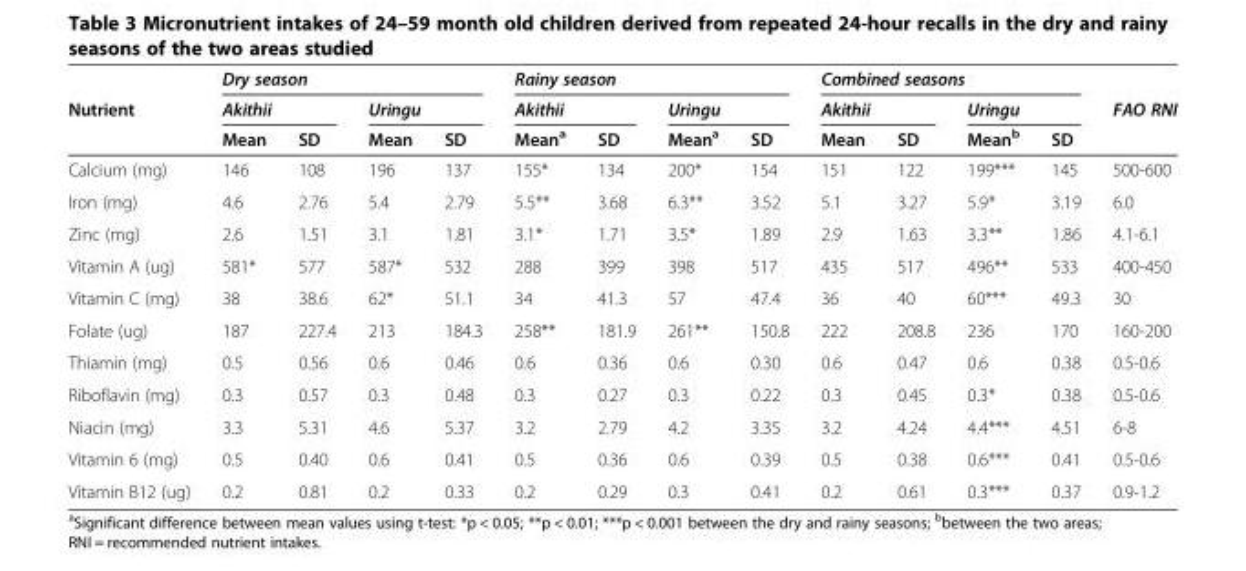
<table><thead><tr><td rowspan="3">Nutrient</td><td colspan="4">Dry season</td><td colspan="4">Rainy season</td><td colspan="4">Combined seasons</td><td rowspan="3">FAO RNI</td></tr><tr><td colspan="2">Akithii</td><td colspan="2">Uringu</td><td colspan="2">Akithii</td><td colspan="2">Uringu</td><td colspan="2">Akithii</td><td colspan="2">Uringu</td></tr><tr><td>Mean</td><td>SD</td><td>Mean</td><td>SD</td><td>Mean<sup>a</sup></td><td>SD</td><td>Mean<sup>a</sup></td><td>SD</td><td>Mean</td><td>SD</td><td>Mean<sup>b</sup></td><td>SD</td></tr></thead><tbody><tr><td>Calcium (mg)</td><td>146</td><td>108</td><td>196</td><td>137</td><td>155*</td><td>134</td><td>200*</td><td>154</td><td>151</td><td>122</td><td>199***</td><td>145</td><td>500-600</td></tr><tr><td>Iron (mg)</td><td>4.6</td><td>2.76</td><td>5.4</td><td>2.79</td><td>5.5**</td><td>3.68</td><td>6.3**</td><td>3.52</td><td>5.1</td><td>3.27</td><td>5.9*</td><td>3.19</td><td>6.0</td></tr><tr><td>Zinc (mg)</td><td>2.6</td><td>1.51</td><td>3.1</td><td>1.81</td><td>3.1*</td><td>1.71</td><td>3.5*</td><td>1.89</td><td>2.9</td><td>1.63</td><td>3.3**</td><td>1.86</td><td>4.1-6.1</td></tr><tr><td>Vitamin A (ug)</td><td>581*</td><td>577</td><td>587*</td><td>532</td><td>288</td><td>399</td><td>398</td><td>517</td><td>435</td><td>517</td><td>496**</td><td>533</td><td>400-450</td></tr><tr><td>Vitamin C (mg)</td><td>38</td><td>38.6</td><td>62*</td><td>51.1</td><td>34</td><td>41.3</td><td>57</td><td>47.4</td><td>36</td><td>40</td><td>60***</td><td>49.3</td><td>30</td></tr><tr><td>Folate (ug)</td><td>187</td><td>227.4</td><td>213</td><td>184.3</td><td>258**</td><td>181.9</td><td>261**</td><td>150.8</td><td>222</td><td>208.8</td><td>236</td><td>170</td><td>160-200</td></tr><tr><td>Thiamin (mg)</td><td>0.5</td><td>0.56</td><td>0.6</td><td>0.46</td><td>0.6</td><td>0.36</td><td>0.6</td><td>0.30</td><td>0.6</td><td>0.47</td><td>0.6</td><td>0.38</td><td>0.5-0.6</td></tr><tr><td>Riboflavin (mg)</td><td>0.3</td><td>0.57</td><td>0.3</td><td>0.48</td><td>0.3</td><td>0.27</td><td>0.3</td><td>0.22</td><td>0.3</td><td>0.45</td><td>0.3*</td><td>0.38</td><td>0.5-0.6</td></tr><tr><td>Niacin (mg)</td><td>3.3</td><td>5.31</td><td>4.6</td><td>5.37</td><td>3.2</td><td>2.79</td><td>4.2</td><td>3.35</td><td>3.2</td><td>4.24</td><td>4.4***</td><td>4.51</td><td>6-8</td></tr><tr><td>Vitamin 6 (mg)</td><td>0.5</td><td>0.40</td><td>0.6</td><td>0.41</td><td>0.5</td><td>0.36</td><td>0.6</td><td>0.39</td><td>0.5</td><td>0.38</td><td>0.6***</td><td>0.41</td><td>0.5-0.6</td></tr><tr><td>Vitamin B12 (ug)</td><td>0.2</td><td>0.81</td><td>0.2</td><td>0.33</td><td>0.2</td><td>0.29</td><td>0.3</td><td>0.41</td><td>0.2</td><td>0.61</td><td>0.3***</td><td>0.37</td><td>0.9-1.2</td></tr></tbody></table>